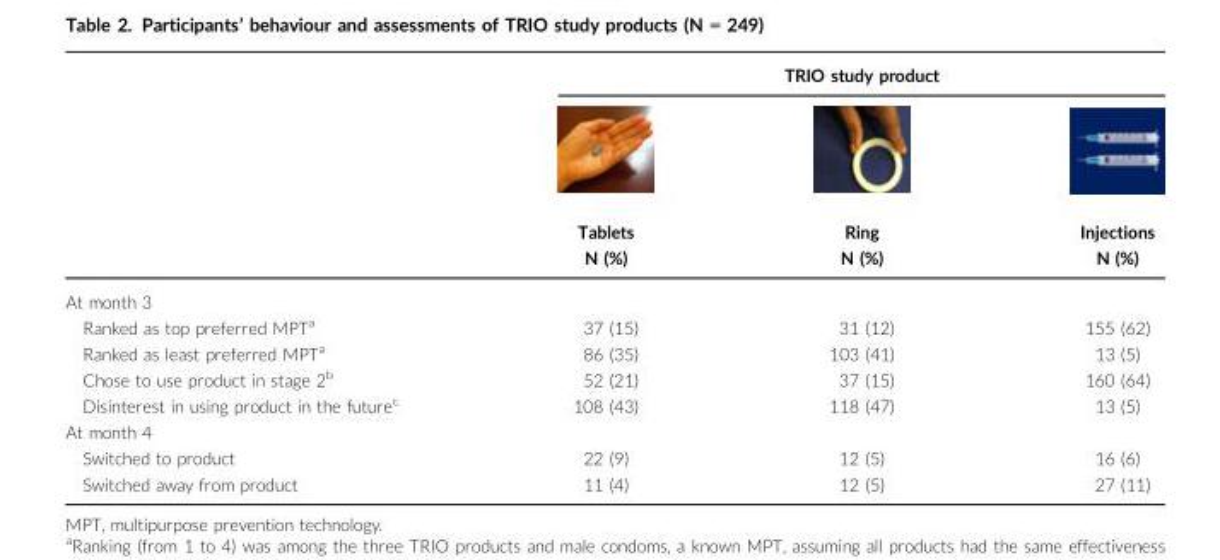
<table><thead><tr><td rowspan="3"></td><td colspan="3">TRIO study product</td></tr><tr><td rowspan="2">Tablets N (%)</td><td rowspan="2">Ring N (%)</td><td rowspan="2">Injections N (%)</td></tr><tr></tr></thead><tbody><tr><td colspan="4">At month 3</td></tr><tr><td>Ranked as top preferred MPT<sup>a</sup></td><td>37 (15)</td><td>31 (12)</td><td>155 (62)</td></tr><tr><td>Ranked as least preferred MPT<sup>a</sup></td><td>86 (35)</td><td>103 (41)</td><td>13 (5)</td></tr><tr><td>Chose to use product in stage 2<sup>b</sup></td><td>52 (21)</td><td>37 (15)</td><td>160 (64)</td></tr><tr><td>Disinterest in using product in the future<sup>c</sup></td><td>108 (43)</td><td>118 (47)</td><td>13 (5)</td></tr><tr><td colspan="4">At month 4</td></tr><tr><td>Switched to product</td><td>22 (9)</td><td>12 (5)</td><td>16 (6)</td></tr><tr><td>Switched away from product</td><td>11 (4)</td><td>12 (5)</td><td>27 (11)</td></tr></tbody></table>